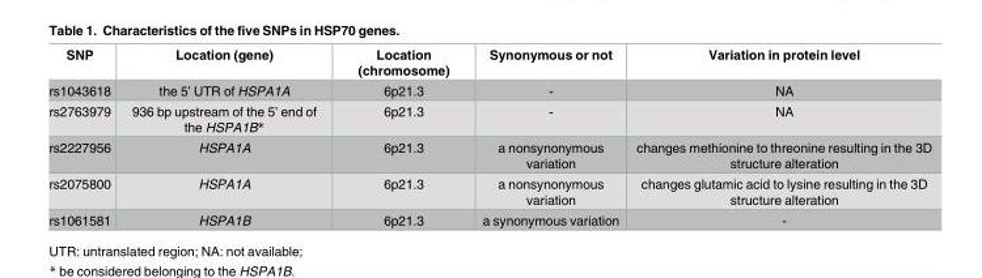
<table><thead><tr><td>SNP</td><td>Location (gene)</td><td>Location (chromosome)</td><td>Synonymous or not</td><td>Variation in protein level</td></tr></thead><tbody><tr><td>rs1043618</td><td>the 5’ UTR of HSPA1A</td><td>6p21.3</td><td>-</td><td>NA</td></tr><tr><td>rs2763979</td><td>936 bp upstream of the 5’ end of the HSPA1B*</td><td>6p21.3</td><td>-</td><td>NA</td></tr><tr><td>rs2227956</td><td>HSPA1A</td><td>6p21.3</td><td>a nonsynonymous variation</td><td>changes methionine to threonine resulting in the 3D structure alteration</td></tr><tr><td>rs2075800</td><td>HSPA1A</td><td>6p21.3</td><td>a nonsynonymous variation</td><td>changes glutamic acid to lysine resulting in the 3D structure alteration</td></tr><tr><td>rs1061581</td><td>HSPA1B</td><td>6p21.3</td><td>a synonymous variation</td><td>-</td></tr></tbody></table>